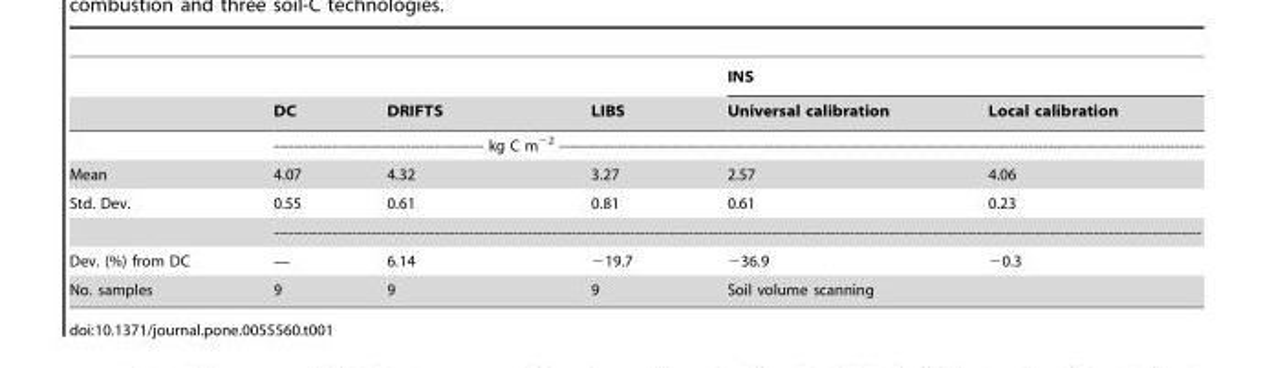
<table><thead><tr><td rowspan="2"></td><td rowspan="2">DC</td><td rowspan="2">DRIFTS</td><td rowspan="2">LIBS</td><td colspan="2">INS</td></tr><tr><td>Universal calibration</td><td>Local calibration</td></tr></thead><tbody><tr><td></td><td colspan="5">------------------------------------------- kg C m<sup>−2</sup> ------------------------------------------------------------------------------------------------------------------------------------</td></tr><tr><td>Mean</td><td>4.07</td><td>4.32</td><td>3.27</td><td>2.57</td><td>4.06</td></tr><tr><td rowspan="2">Std. Dev.</td><td>0.55</td><td>0.61</td><td>0.81</td><td>0.61</td><td>0.23</td></tr><tr><td colspan="5">----------------------------------------------------------------------------------------------------------------------------------------------------------------------------------------------</td></tr><tr><td>Dev. (%) from DC</td><td>—</td><td>6.14</td><td>−19.7</td><td>−36.9</td><td>−0.3</td></tr><tr><td>No. samples</td><td>9</td><td>9</td><td>9</td><td colspan="2">Soil volume scanning</td></tr></tbody></table>